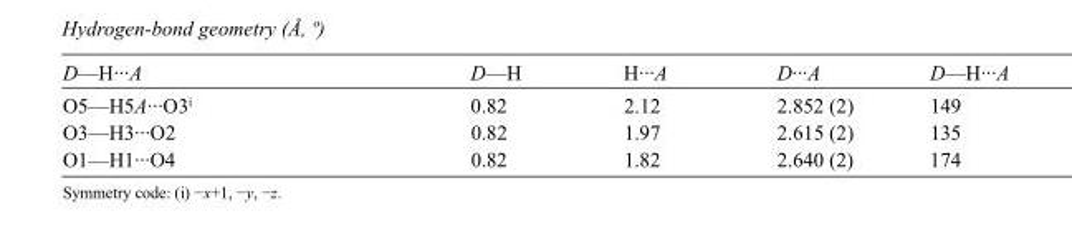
<table><tbody><tr><td>D—H···A</td><td>D—H</td><td>H···A</td><td>D···A</td><td>D—H···A</td></tr><tr><td>O5—H5A···O3<sup>i</sup></td><td>0.82</td><td>2.12</td><td>2.852 (2)</td><td>149</td></tr><tr><td>O3—H3···O2</td><td>0.82</td><td>1.97</td><td>2.615 (2)</td><td>135</td></tr><tr><td>O1—H1···O4</td><td>0.82</td><td>1.82</td><td>2.640 (2)</td><td>174</td></tr></tbody></table>